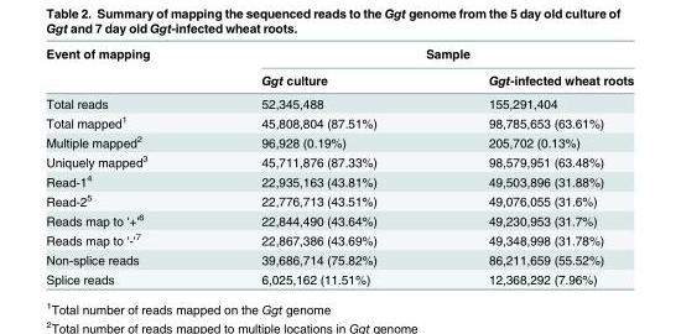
<table><thead><tr><td rowspan="2">Event of mapping</td><td colspan="2">Sample</td></tr><tr><td>Ggt culture</td><td>Ggt-infected wheat roots</td></tr></thead><tbody><tr><td>Total reads</td><td>52,345,488</td><td>155,291,404</td></tr><tr><td>Total mapped<sup>1</sup></td><td>45,808,804 (87.51%)</td><td>98,785,653 (63.61%)</td></tr><tr><td>Multiple mapped<sup>2</sup></td><td>96,928 (0.19%)</td><td>205,702 (0.13%)</td></tr><tr><td>Uniquely mapped<sup>3</sup></td><td>45,711,876 (87.33%)</td><td>98,579,951 (63.48%)</td></tr><tr><td>Read-1<sup>4</sup></td><td>22,935,163 (43.81%)</td><td>49,503,896 (31.88%)</td></tr><tr><td>Read-2<sup>5</sup></td><td>22,776,713 (43.51%)</td><td>49,076,055 (31.6%)</td></tr><tr><td>Reads map to &#x27;+&#x27;<sup>6</sup></td><td>22,844,490 (43.64%)</td><td>49,230,953 (31.7%)</td></tr><tr><td>Reads map to &#x27;-&#x27;<sup>7</sup></td><td>22,867,386 (43.69%)</td><td>49,348,998 (31.78%)</td></tr><tr><td>Non-splice reads</td><td>39,686,714 (75.82%)</td><td>86,211,659 (55.52%)</td></tr><tr><td>Splice reads</td><td>6,025,162 (11.51%)</td><td>12,368,292 (7.96%)</td></tr></tbody></table>